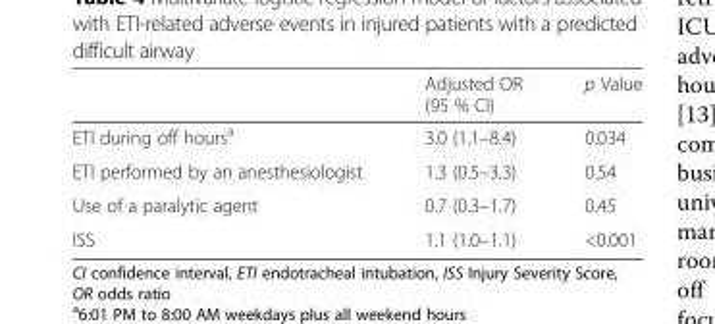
<table><thead><tr><td></td><td>Adjusted OR (95 % CI)</td><td>p Value</td></tr></thead><tbody><tr><td>ETI during off hours<sup>a</sup></td><td>3.0 (1.1–8.4)</td><td>0.034</td></tr><tr><td>ETI performed by an anesthesiologist</td><td>1.3 (0.5–3.3)</td><td>0.54</td></tr><tr><td>Use of a paralytic agent</td><td>0.7 (0.3–1.7)</td><td>0.45</td></tr><tr><td>ISS</td><td>1.1 (1.0–1.1)</td><td>&lt;0.001</td></tr></tbody></table>